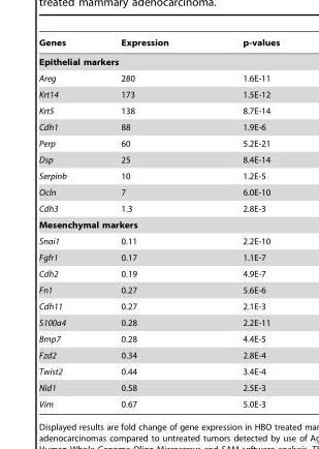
<table><thead><tr><td>Genes</td><td>Expression</td><td>p-values</td></tr></thead><tbody><tr><td colspan="3">Epithelial markers</td></tr><tr><td>Areg</td><td>280</td><td>1.6E-11</td></tr><tr><td>Krt14</td><td>173</td><td>1.5E-12</td></tr><tr><td>Krt5</td><td>138</td><td>8.7E-14</td></tr><tr><td>Cdh1</td><td>88</td><td>1.9E-6</td></tr><tr><td>Perp</td><td>60</td><td>5.2E-21</td></tr><tr><td>Dsp</td><td>25</td><td>8.4E-14</td></tr><tr><td>Serpinb</td><td>10</td><td>1.2E-5</td></tr><tr><td>Ocln</td><td>7</td><td>6.0E-10</td></tr><tr><td>Cdh3</td><td>1.3</td><td>2.8E-3</td></tr><tr><td colspan="3">Mesenchymal markers</td></tr><tr><td>Snai1</td><td>0.11</td><td>2.2E-10</td></tr><tr><td>Fgfr1</td><td>0.17</td><td>1.1E-7</td></tr><tr><td>Cdh2</td><td>0.19</td><td>4.9E-7</td></tr><tr><td>Fn1</td><td>0.27</td><td>5.6E-6</td></tr><tr><td>Cdh11</td><td>0.27</td><td>2.1E-3</td></tr><tr><td>S100a4</td><td>0.28</td><td>2.2E-11</td></tr><tr><td>Bmp7</td><td>0.28</td><td>4.4E-5</td></tr><tr><td>Fzd2</td><td>0.34</td><td>2.8E-4</td></tr><tr><td>Twist2</td><td>0.44</td><td>3.4E-4</td></tr><tr><td>Nid1</td><td>0.58</td><td>2.5E-3</td></tr><tr><td>Vim</td><td>0.67</td><td>5.0E-3</td></tr></tbody></table>